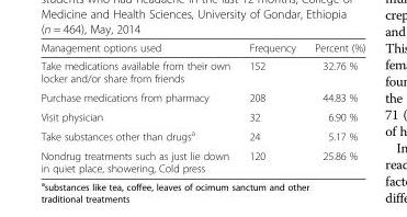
<table><thead><tr><td>Management options used</td><td>Frequency</td><td>Percent (%)</td></tr></thead><tbody><tr><td>Take medications available from their own locker and/or share from friends</td><td>152</td><td>32.76 %</td></tr><tr><td>Purchase medications from pharmacy</td><td>208</td><td>44.83 %</td></tr><tr><td>Visit physician</td><td>32</td><td>6.90 %</td></tr><tr><td>Take substances other than drugs<sup>a</sup></td><td>24</td><td>5.17 %</td></tr><tr><td>Nondrug treatments such as just lie down in quiet place, showering, Cold press</td><td>120</td><td>25.86 %</td></tr></tbody></table>